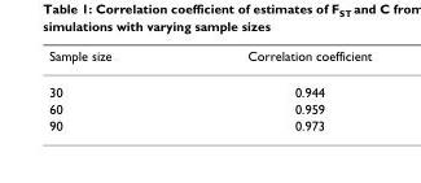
<table><thead><tr><td>Sample size</td><td>Correlation coefficient</td></tr></thead><tbody><tr><td>30</td><td>0.944</td></tr><tr><td>60</td><td>0.959</td></tr><tr><td>90</td><td>0.973</td></tr></tbody></table>